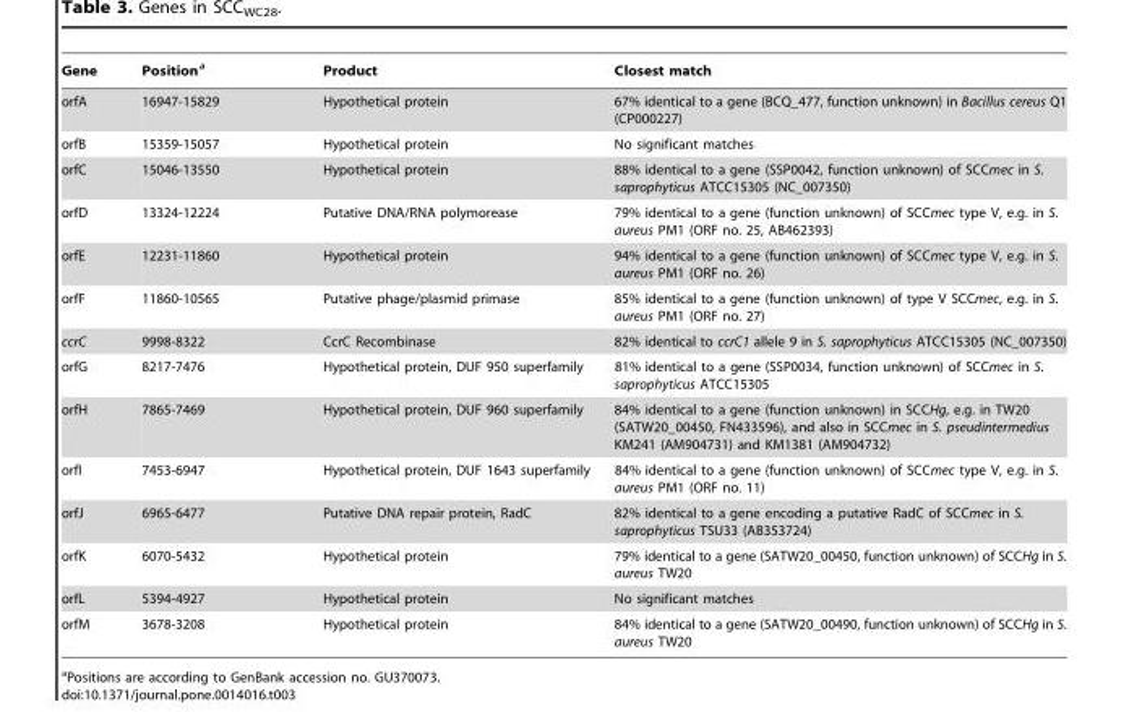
<table><thead><tr><td>Gene</td><td>Position<sup>a</sup></td><td>Product</td><td>Closest match</td></tr></thead><tbody><tr><td>orfA</td><td>16947-15829</td><td>Hypothetical protein</td><td>67% identical to a gene (BCQ_477, function unknown) in Bacillus cereus Q1 (CP000227)</td></tr><tr><td>orfB</td><td>15359-15057</td><td>Hypothetical protein</td><td>No significant matches</td></tr><tr><td>orfC</td><td>15046-13550</td><td>Hypothetical protein</td><td>88% identical to a gene (SSP0042, function unknown) of SCCmec in S. saprophyticus ATCC15305 (NC_007350)</td></tr><tr><td>orfD</td><td>13324-12224</td><td>Putative DNA/RNA polymorease</td><td>79% identical to a gene (function unknown) of SCCmec type V, e.g. in S. aureus PM1 (ORF no. 25, AB462393)</td></tr><tr><td>orfE</td><td>12231-11860</td><td>Hypothetical protein</td><td>94% identical to a gene (function unknown) of SCCmec type V, e.g. in S. aureus PM1 (ORF no. 26)</td></tr><tr><td>orfF</td><td>11860-10565</td><td>Putative phage/plasmid primase</td><td>85% identical to a gene (function unknown) of type V SCCmec, e.g. in S. aureus PM1 (ORF no. 27)</td></tr><tr><td>ccrC</td><td>9998-8322</td><td>CcrC Recombinase</td><td>82% identical to ccrC1 allele 9 in S. saprophyticus ATCC15305 (NC_007350)</td></tr><tr><td>orfG</td><td>8217-7476</td><td>Hypothetical protein, DUF 950 superfamily</td><td>81% identical to a gene (SSP0034, function unknown) of SCCmec in S. saprophyticus ATCC15305</td></tr><tr><td>orfH</td><td>7865-7469</td><td>Hypothetical protein, DUF 960 superfamily</td><td>84% identical to a gene (function unknown) in SCCHg, e.g. in TW20 (SATW20_00450, FN433596), and also in SCCmec in S. pseudintermedius KM241 (AM904731) and KM1381 (AM904732)</td></tr><tr><td>orfI</td><td>7453-6947</td><td>Hypothetical protein, DUF 1643 superfamily</td><td>84% identical to a gene (function unknown) of SCCmec type V, e.g. in S. aureus PM1 (ORF no. 11)</td></tr><tr><td>orfJ</td><td>6965-6477</td><td>Putative DNA repair protein, RadC</td><td>82% identical to a gene encoding a putative RadC of SCCmec in S. saprophyticus TSU33 (AB353724)</td></tr><tr><td>orfK</td><td>6070-5432</td><td>Hypothetical protein</td><td>79% identical to a gene (SATW20_00450, function unknown) of SCCHg in S. aureus TW20</td></tr><tr><td>orfL</td><td>5394-4927</td><td>Hypothetical protein</td><td>No significant matches</td></tr><tr><td>orfM</td><td>3678-3208</td><td>Hypothetical protein</td><td>84% identical to a gene (SATW20_00490, function unknown) of SCCHg in S. aureus TW20</td></tr></tbody></table>